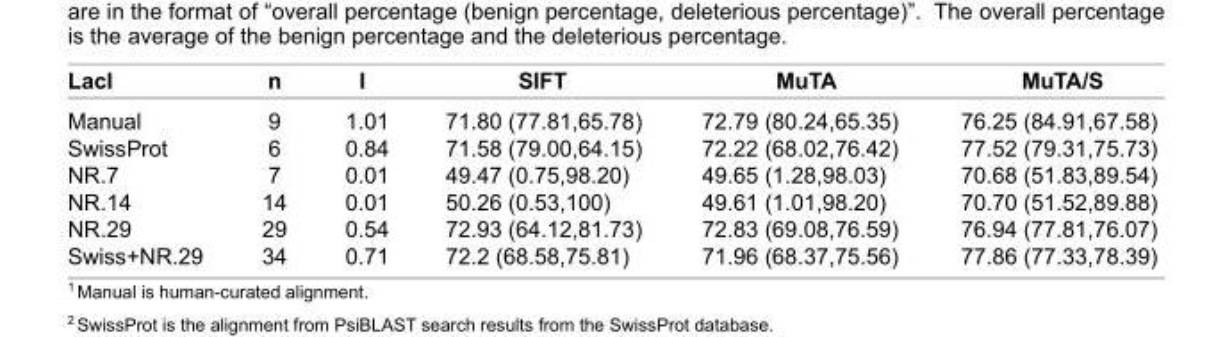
<table><thead><tr><td>LacI</td><td>n</td><td>I</td><td>SIFT</td><td>MuTA</td><td>MuTA/S</td></tr></thead><tbody><tr><td>Manual</td><td>9</td><td>1.01</td><td>71.80 (77.81,65.78)</td><td>72.79 (80.24,65.35)</td><td>76.25 (84.91,67.58)</td></tr><tr><td>SwissProt</td><td>6</td><td>0.84</td><td>71.58 (79.00,64.15)</td><td>72.22 (68.02,76.42)</td><td>77.52 (79.31,75.73)</td></tr><tr><td>NR.7</td><td>7</td><td>0.01</td><td>49.47 (0.75,98.20)</td><td>49.65 (1.28,98.03)</td><td>70.68 (51.83,89.54)</td></tr><tr><td>NR.14</td><td>14</td><td>0.01</td><td>50.26 (0.53,100)</td><td>49.61 (1.01,98.20)</td><td>70.70 (51.52,89.88)</td></tr><tr><td>NR.29</td><td>29</td><td>0.54</td><td>72.93 (64.12,81.73)</td><td>72.83 (69.08,76.59)</td><td>76.94 (77.81,76.07)</td></tr><tr><td>Swiss+NR.29</td><td>34</td><td>0.71</td><td>72.2 (68.58,75.81)</td><td>71.96 (68.37,75.56)</td><td>77.86 (77.33,78.39)</td></tr></tbody></table>